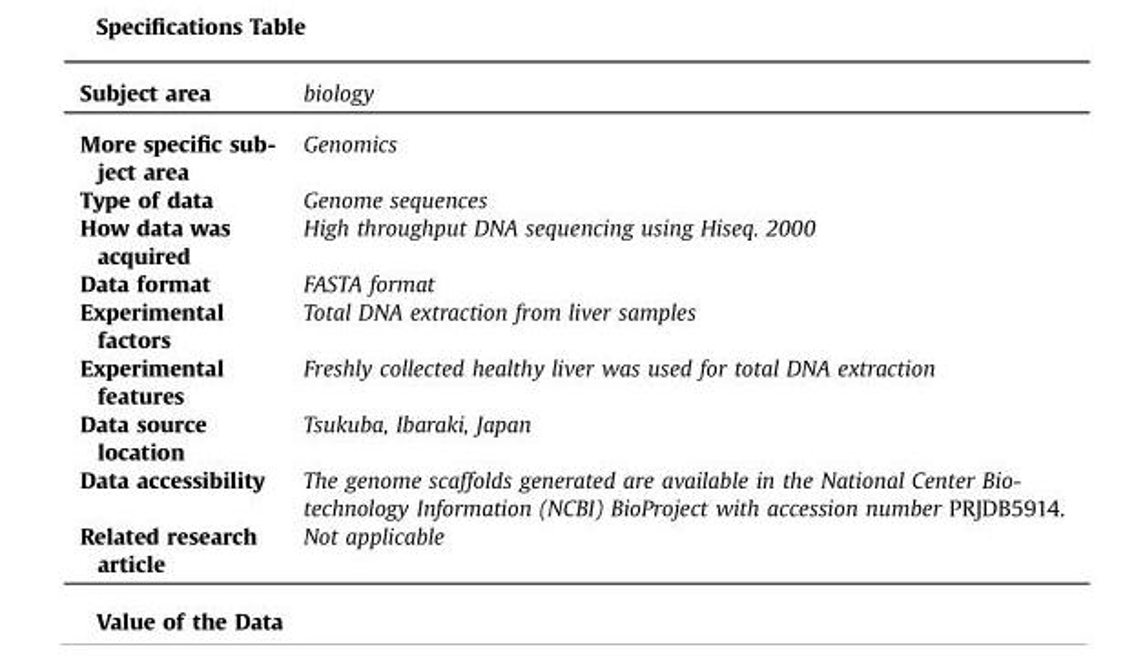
<table><thead><tr><td>Subject area</td><td>biology</td></tr></thead><tbody><tr><td>More specific sub- ject area</td><td>Genomics</td></tr><tr><td>Type of data</td><td>Genome sequences</td></tr><tr><td>How data was acquired</td><td>High throughput DNA sequencing using Hiseq. 2000</td></tr><tr><td>Data format</td><td>FASTA format</td></tr><tr><td>Experimental factors</td><td>Total DNA extraction from liver samples</td></tr><tr><td>Experimental features</td><td>Freshly collected healthy liver was used for total DNA extraction</td></tr><tr><td>Data source location</td><td>Tsukuba, Ibaraki, Japan</td></tr><tr><td>Data accessibility</td><td>The genome scaffolds generated are available in the National Center Bio- technology Information (NCBI) BioProject with accession number PRJDB5914.</td></tr><tr><td>Related research article</td><td>Not applicable</td></tr></tbody></table>